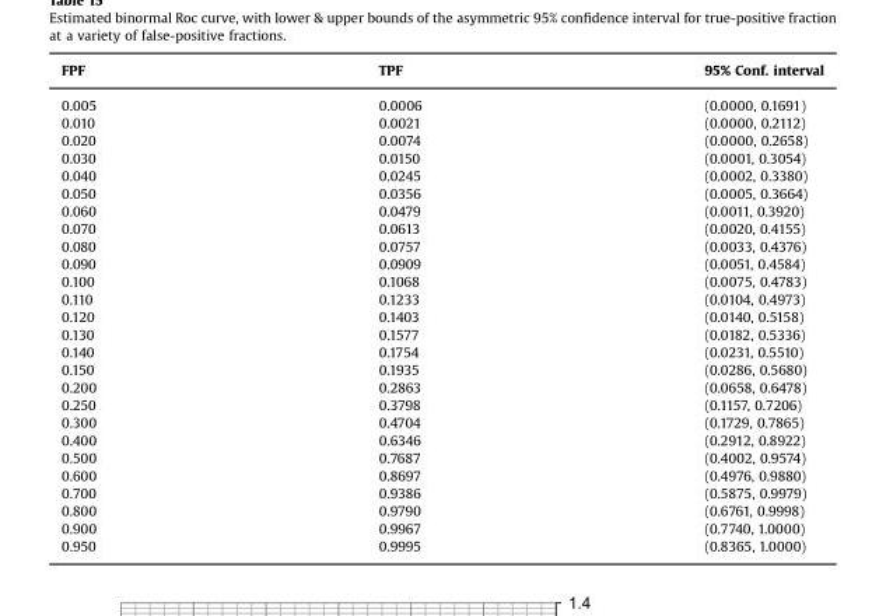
<table><thead><tr><td>FPF</td><td>TPF</td><td>95% Conf. interval</td></tr></thead><tbody><tr><td>0.005</td><td>0.0006</td><td>(0.0000, 0.1691)</td></tr><tr><td>0.010</td><td>0.0021</td><td>(0.0000, 0.2112)</td></tr><tr><td>0.020</td><td>0.0074</td><td>(0.0000, 0.2658)</td></tr><tr><td>0.030</td><td>0.0150</td><td>(0.0001, 0.3054)</td></tr><tr><td>0.040</td><td>0.0245</td><td>(0.0002, 0.3380)</td></tr><tr><td>0.050</td><td>0.0356</td><td>(0.0005, 0.3664)</td></tr><tr><td>0.060</td><td>0.0479</td><td>(0.0011, 0.3920)</td></tr><tr><td>0.070</td><td>0.0613</td><td>(0.0020, 0.4155)</td></tr><tr><td>0.080</td><td>0.0757</td><td>(0.0033, 0.4376)</td></tr><tr><td>0.090</td><td>0.0909</td><td>(0.0051, 0.4584)</td></tr><tr><td>0.100</td><td>0.1068</td><td>(0.0075, 0.4783)</td></tr><tr><td>0.110</td><td>0.1233</td><td>(0.0104, 0.4973)</td></tr><tr><td>0.120</td><td>0.1403</td><td>(0.0140, 0.5158)</td></tr><tr><td>0.130</td><td>0.1577</td><td>(0.0182, 0.5336)</td></tr><tr><td>0.140</td><td>0.1754</td><td>(0.0231, 0.5510)</td></tr><tr><td>0.150</td><td>0.1935</td><td>(0.0286, 0.5680)</td></tr><tr><td>0.200</td><td>0.2863</td><td>(0.0658, 0.6478)</td></tr><tr><td>0.250</td><td>0.3798</td><td>(0.1157, 0.7206)</td></tr><tr><td>0.300</td><td>0.4704</td><td>(0.1729, 0.7865)</td></tr><tr><td>0.400</td><td>0.6346</td><td>(0.2912, 0.8922)</td></tr><tr><td>0.500</td><td>0.7687</td><td>(0.4002, 0.9574)</td></tr><tr><td>0.600</td><td>0.8697</td><td>(0.4976, 0.9880)</td></tr><tr><td>0.700</td><td>0.9386</td><td>(0.5875, 0.9979)</td></tr><tr><td>0.800</td><td>0.9790</td><td>(0.6761, 0.9998)</td></tr><tr><td>0.900</td><td>0.9967</td><td>(0.7740, 1.0000)</td></tr><tr><td>0.950</td><td>0.9995</td><td>(0.8365, 1.0000)</td></tr></tbody></table>